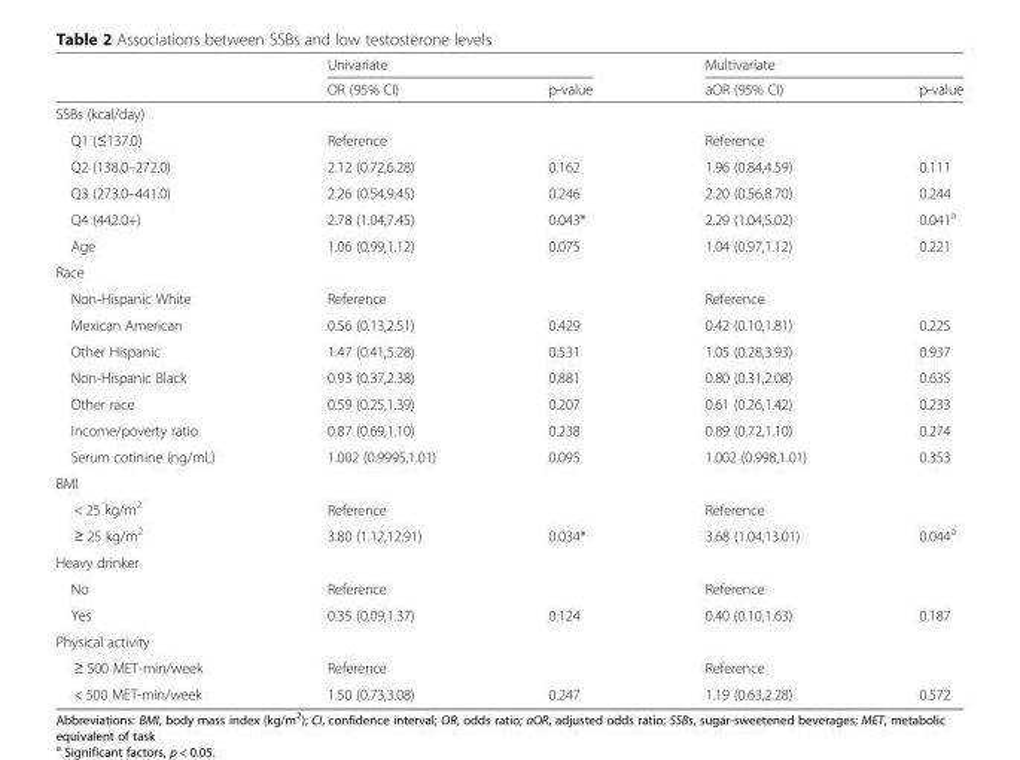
<table><thead><tr><td rowspan="2"></td><td colspan="2">Univariate</td><td colspan="2">Multivariate</td></tr><tr><td>OR (95% CI)</td><td>p-value</td><td>aOR (95% CI)</td><td>p-value</td></tr></thead><tbody><tr><td colspan="5">SSBs (kcal/day)</td></tr><tr><td>Q1 (≤137.0)</td><td>Reference</td><td></td><td>Reference</td><td></td></tr><tr><td>Q2 (138.0–272.0)</td><td>2.12 (0.72,6.28)</td><td>0.162</td><td>1.96 (0.84,4.59)</td><td>0.111</td></tr><tr><td>Q3 (273.0–441.0)</td><td>2.26 (0.54,9.45)</td><td>0.246</td><td>2.20 (0.56,8.70)</td><td>0.244</td></tr><tr><td>Q4 (442.0+)</td><td>2.78 (1.04,7.45)</td><td>0.043*</td><td>2.29 (1.04,5.02)</td><td>0.041<sup>a</sup></td></tr><tr><td>Age</td><td>1.06 (0.99,1.12)</td><td>0.075</td><td>1.04 (0.97,1.12)</td><td>0.221</td></tr><tr><td colspan="5">Race</td></tr><tr><td>Non-Hispanic White</td><td>Reference</td><td></td><td>Reference</td><td></td></tr><tr><td>Mexican American</td><td>0.56 (0.13,2.51)</td><td>0.429</td><td>0.42 (0.10,1.81)</td><td>0.225</td></tr><tr><td>Other Hispanic</td><td>1.47 (0.41,5.28)</td><td>0.531</td><td>1.05 (0.28,3.93)</td><td>0.937</td></tr><tr><td>Non-Hispanic Black</td><td>0.93 (0.37,2.38)</td><td>0.881</td><td>0.80 (0.31,2.08)</td><td>0.635</td></tr><tr><td>Other race</td><td>0.59 (0.25,1.39)</td><td>0.207</td><td>0.61 (0.26,1.42)</td><td>0.233</td></tr><tr><td>Income/poverty ratio</td><td>0.87 (0.69,1.10)</td><td>0.238</td><td>0.89 (0.72,1.10)</td><td>0.274</td></tr><tr><td>Serum cotinine (ng/mL)</td><td>1.002 (0.9995,1.01)</td><td>0.095</td><td>1.002 (0.998,1.01)</td><td>0.353</td></tr><tr><td colspan="5">BMI</td></tr><tr><td>&lt; 25 kg/m<sup>2</sup></td><td>Reference</td><td></td><td>Reference</td><td></td></tr><tr><td>≥ 25 kg/m<sup>2</sup></td><td>3.80 (1.12,12.91)</td><td>0.034*</td><td>3.68 (1.04,13.01)</td><td>0.044<sup>a</sup></td></tr><tr><td colspan="5">Heavy drinker</td></tr><tr><td>No</td><td>Reference</td><td></td><td>Reference</td><td></td></tr><tr><td>Yes</td><td>0.35 (0.09,1.37)</td><td>0.124</td><td>0.40 (0.10,1.63)</td><td>0.187</td></tr><tr><td colspan="5">Physical activity</td></tr><tr><td>≥ 500 MET-min/week</td><td>Reference</td><td></td><td>Reference</td><td></td></tr><tr><td>&lt; 500 MET-min/week</td><td>1.50 (0.73,3.08)</td><td>0.247</td><td>1.19 (0.63,2.28)</td><td>0.572</td></tr></tbody></table>